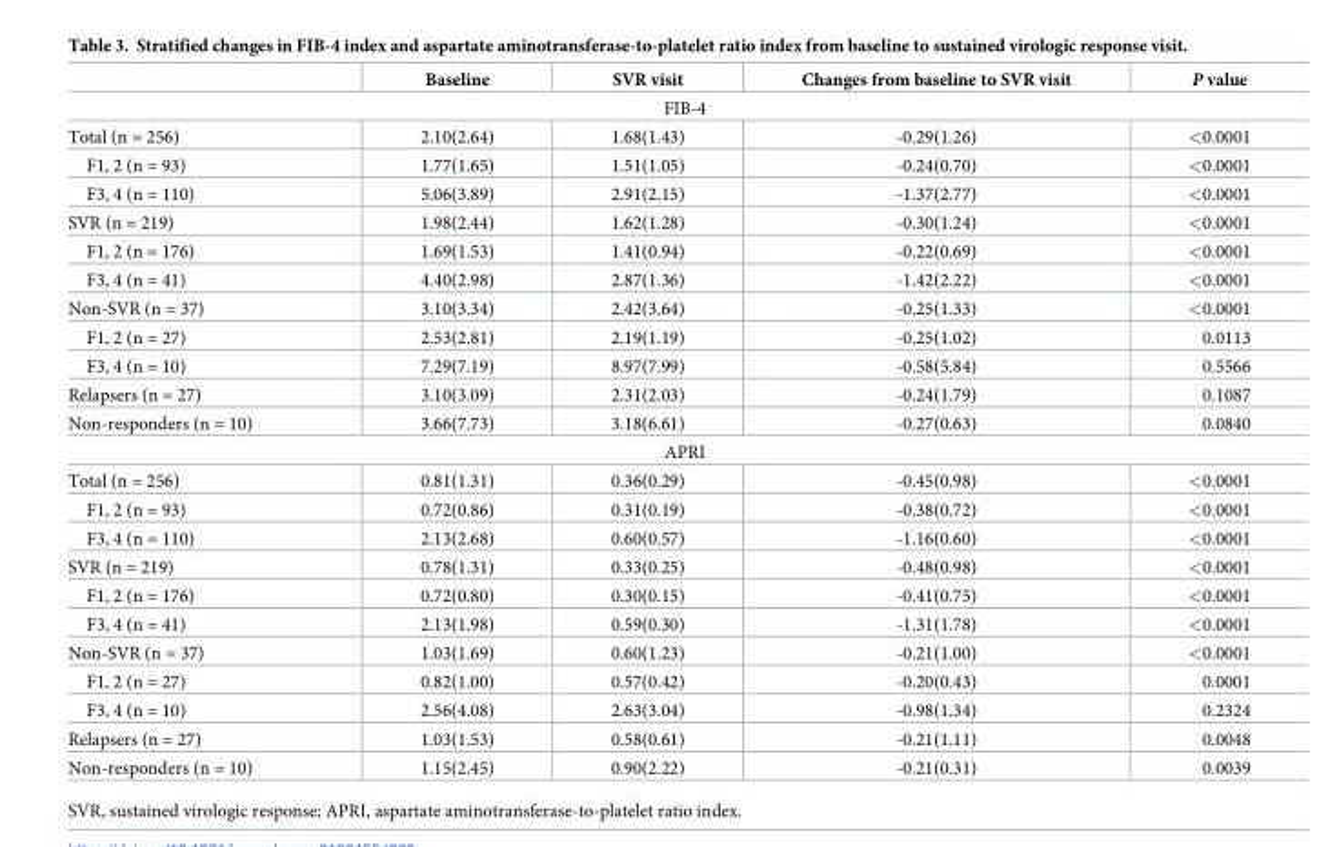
<table><thead><tr><td></td><td>Baseline</td><td>SVR visit</td><td>Changes from baseline to SVR visit</td><td>P value</td></tr></thead><tbody><tr><td colspan="5">FIB-4</td></tr><tr><td>Total (n = 256)</td><td>2.10(2.64)</td><td>1.68(1.43)</td><td>-0.29(1.26)</td><td>&lt;0.0001</td></tr><tr><td>F1, 2 (n = 93)</td><td>1.77(1.65)</td><td>1.51(1.05)</td><td>-0.24(0.70)</td><td>&lt;0.0001</td></tr><tr><td>F3, 4 (n = 110)</td><td>5.06(3.89)</td><td>2.91(2.15)</td><td>-1.37(2.77)</td><td>&lt;0.0001</td></tr><tr><td>SVR (n = 219)</td><td>1.98(2.44)</td><td>1.62(1.28)</td><td>-0.30(1.24)</td><td>&lt;0.0001</td></tr><tr><td>F1, 2 (n = 176)</td><td>1.69(1.53)</td><td>1.41(0.94)</td><td>-0.22(0.69)</td><td>&lt;0.0001</td></tr><tr><td>F3, 4 (n = 41)</td><td>4.40(2.98)</td><td>2.87(1.36)</td><td>-1.42(2.22)</td><td>&lt;0.0001</td></tr><tr><td>Non-SVR (n = 37)</td><td>3.10(3.34)</td><td>2.42(3.64)</td><td>-0.25(1.33)</td><td>&lt;0.0001</td></tr><tr><td>F1, 2 (n = 27)</td><td>2.53(2.81)</td><td>2.19(1.19)</td><td>-0.25(1.02)</td><td>0.0113</td></tr><tr><td>F3, 4 (n = 10)</td><td>7.29(7.19)</td><td>8.97(7.99)</td><td>-0.58(5.84)</td><td>0.5566</td></tr><tr><td>Relapsers (n = 27)</td><td>3.10(3.09)</td><td>2.31(2.03)</td><td>-0.24(1.79)</td><td>0.1087</td></tr><tr><td>Non-responders (n = 10)</td><td>3.66(7.73)</td><td>3.18(6.61)</td><td>-0.27(0.63)</td><td>0.0840</td></tr><tr><td colspan="5">APRI</td></tr><tr><td>Total (n = 256)</td><td>0.81(1.31)</td><td>0.36(0.29)</td><td>-0.45(0.98)</td><td>&lt;0.0001</td></tr><tr><td>F1, 2 (n = 93)</td><td>0.72(0.86)</td><td>0.31(0.19)</td><td>-0.38(0.72)</td><td>&lt;0.0001</td></tr><tr><td>F3, 4 (n = 110)</td><td>2.13(2.68)</td><td>0.60(0.57)</td><td>-1.16(0.60)</td><td>&lt;0.0001</td></tr><tr><td>SVR (n = 219)</td><td>0.78(1.31)</td><td>0.33(0.25)</td><td>-0.48(0.98)</td><td>&lt;0.0001</td></tr><tr><td>F1, 2 (n = 176)</td><td>0.72(0.80)</td><td>0.30(0.15)</td><td>-0.41(0.75)</td><td>&lt;0.0001</td></tr><tr><td>F3, 4 (n = 41)</td><td>2.13(1.98)</td><td>0.59(0.30)</td><td>-1.31(1.78)</td><td>&lt;0.0001</td></tr><tr><td>Non-SVR (n = 37)</td><td>1.03(1.69)</td><td>0.60(1.23)</td><td>-0.21(1.00)</td><td>&lt;0.0001</td></tr><tr><td>F1, 2 (n = 27)</td><td>0.82(1.00)</td><td>0.57(0.42)</td><td>-0.20(0.43)</td><td>0.0001</td></tr><tr><td>F3, 4 (n = 10)</td><td>2.56(4.08)</td><td>2.63(3.04)</td><td>-0.98(1.34)</td><td>0.2324</td></tr><tr><td>Relapsers (n = 27)</td><td>1.03(1.53)</td><td>0.58(0.61)</td><td>-0.21(1.11)</td><td>0.0048</td></tr><tr><td>Non-responders (n = 10)</td><td>1.15(2.45)</td><td>0.90(2.22)</td><td>-0.21(0.31)</td><td>0.0039</td></tr></tbody></table>